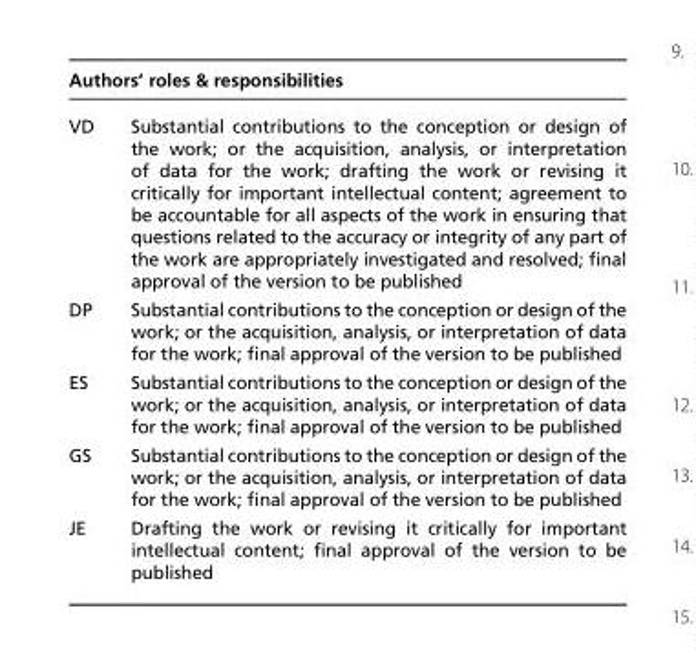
<table><thead><tr><td colspan="2">Authors’ roles &amp; responsibilities</td></tr><tr><td>VD</td><td>Substantial contributions to the conception or design of the work; or the acquisition, analysis, or interpretation of data for the work; drafting the work or revising it critically for important intellectual content; agreement to be accountable for all aspects of the work in ensuring that questions related to the accuracy or integrity of any part of the work are appropriately investigated and resolved; final approval of the version to be published</td></tr></thead><tbody><tr><td>DP</td><td>Substantial contributions to the conception or design of the work; or the acquisition, analysis, or interpretation of data for the work; final approval of the version to be published</td></tr><tr><td>ES</td><td>Substantial contributions to the conception or design of the work; or the acquisition, analysis, or interpretation of data for the work; final approval of the version to be published</td></tr><tr><td>GS</td><td>Substantial contributions to the conception or design of the work; or the acquisition, analysis, or interpretation of data for the work; final approval of the version to be published</td></tr><tr><td>JE</td><td>Drafting the work or revising it critically for important intellectual content; final approval of the version to be published</td></tr></tbody></table>